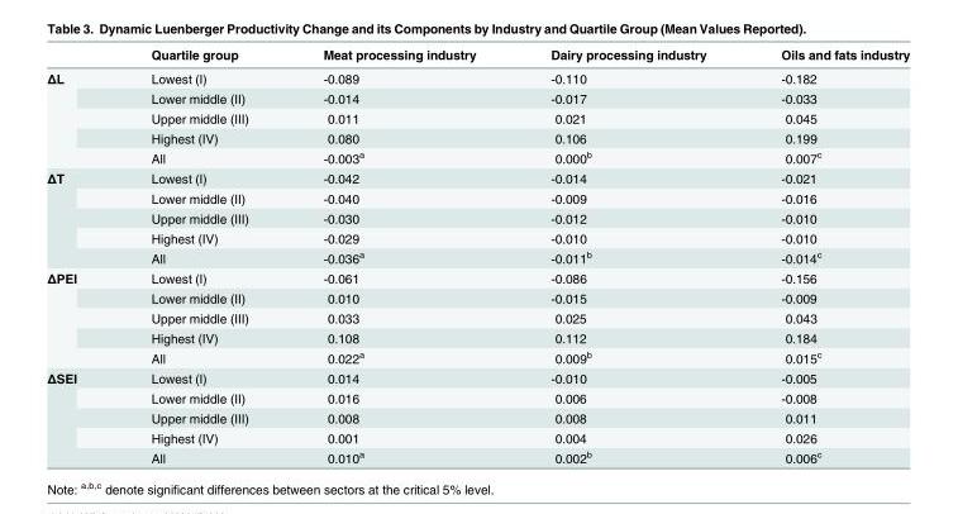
<table><thead><tr><td></td><td>Quartile group</td><td>Meat processing industry</td><td>Dairy processing industry</td><td>Oils and fats industry</td></tr></thead><tbody><tr><td rowspan="5">ΔL</td><td>Lowest (I)</td><td>-0.089</td><td>-0.110</td><td>-0.182</td></tr><tr><td>Lower middle (II)</td><td>-0.014</td><td>-0.017</td><td>-0.033</td></tr><tr><td>Upper middle (III)</td><td>0.011</td><td>0.021</td><td>0.045</td></tr><tr><td>Highest (IV)</td><td>0.080</td><td>0.106</td><td>0.199</td></tr><tr><td>All</td><td>-0.003<sup>a</sup></td><td>0.000<sup>b</sup></td><td>0.007<sup>c</sup></td></tr><tr><td rowspan="5">ΔT</td><td>Lowest (I)</td><td>-0.042</td><td>-0.014</td><td>-0.021</td></tr><tr><td>Lower middle (II)</td><td>-0.040</td><td>-0.009</td><td>-0.016</td></tr><tr><td>Upper middle (III)</td><td>-0.030</td><td>-0.012</td><td>-0.010</td></tr><tr><td>Highest (IV)</td><td>-0.029</td><td>-0.010</td><td>-0.010</td></tr><tr><td>All</td><td>-0.036<sup>a</sup></td><td>-0.011<sup>b</sup></td><td>-0.014<sup>c</sup></td></tr><tr><td rowspan="5">ΔPEI</td><td>Lowest (I)</td><td>-0.061</td><td>-0.086</td><td>-0.156</td></tr><tr><td>Lower middle (II)</td><td>0.010</td><td>-0.015</td><td>-0.009</td></tr><tr><td>Upper middle (III)</td><td>0.033</td><td>0.025</td><td>0.043</td></tr><tr><td>Highest (IV)</td><td>0.108</td><td>0.112</td><td>0.184</td></tr><tr><td>All</td><td>0.022<sup>a</sup></td><td>0.009<sup>b</sup></td><td>0.015<sup>c</sup></td></tr><tr><td rowspan="5">ΔSEI</td><td>Lowest (I)</td><td>0.014</td><td>-0.010</td><td>-0.005</td></tr><tr><td>Lower middle (II)</td><td>0.016</td><td>0.006</td><td>-0.008</td></tr><tr><td>Upper middle (III)</td><td>0.008</td><td>0.008</td><td>0.011</td></tr><tr><td>Highest (IV)</td><td>0.001</td><td>0.004</td><td>0.026</td></tr><tr><td>All</td><td>0.010<sup>a</sup></td><td>0.002<sup>b</sup></td><td>0.006<sup>c</sup></td></tr></tbody></table>